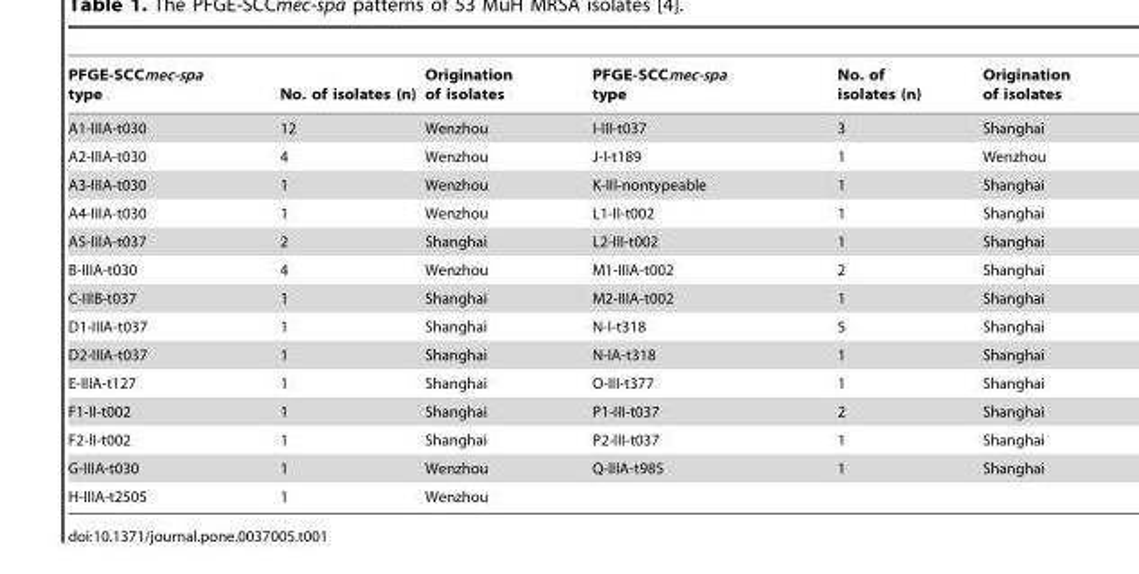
<table><thead><tr><td>PFGE-SCCmec-spa type</td><td>No. of isolates (n)</td><td>Origination of isolates</td><td>PFGE-SCCmec-spa type</td><td>No. of isolates (n)</td><td>Origination of isolates</td></tr></thead><tbody><tr><td>A1-IIIA-t030</td><td>12</td><td>Wenzhou</td><td>I-III-t037</td><td>3</td><td>Shanghai</td></tr><tr><td>A2-IIIA-t030</td><td>4</td><td>Wenzhou</td><td>J-I-t189</td><td>1</td><td>Wenzhou</td></tr><tr><td>A3-IIIA-t030</td><td>1</td><td>Wenzhou</td><td>K-III-nontypeable</td><td>1</td><td>Shanghai</td></tr><tr><td>A4-IIIA-t030</td><td>1</td><td>Wenzhou</td><td>L1-II-t002</td><td>1</td><td>Shanghai</td></tr><tr><td>A5-IIIA-t037</td><td>2</td><td>Shanghai</td><td>L2-III-t002</td><td>1</td><td>Shanghai</td></tr><tr><td>B-IIIA-t030</td><td>4</td><td>Wenzhou</td><td>M1-IIIA-t002</td><td>2</td><td>Shanghai</td></tr><tr><td>C-IIIB-t037</td><td>1</td><td>Shanghai</td><td>M2-IIIA-t002</td><td>1</td><td>Shanghai</td></tr><tr><td>D1-IIIA-t037</td><td>1</td><td>Shanghai</td><td>N-I-t318</td><td>5</td><td>Shanghai</td></tr><tr><td>D2-IIIA-t037</td><td>1</td><td>Shanghai</td><td>N-IA-t318</td><td>1</td><td>Shanghai</td></tr><tr><td>E-IIIA-t127</td><td>1</td><td>Shanghai</td><td>O-III-t377</td><td>1</td><td>Shanghai</td></tr><tr><td>F1-II-t002</td><td>1</td><td>Shanghai</td><td>P1-III-t037</td><td>2</td><td>Shanghai</td></tr><tr><td>F2-II-t002</td><td>1</td><td>Shanghai</td><td>P2-III-t037</td><td>1</td><td>Shanghai</td></tr><tr><td>G-IIIA-t030</td><td>1</td><td>Wenzhou</td><td>Q-IIIA-t985</td><td>1</td><td>Shanghai</td></tr><tr><td>H-IIIA-t2505</td><td>1</td><td>Wenzhou</td><td></td><td></td><td></td></tr></tbody></table>